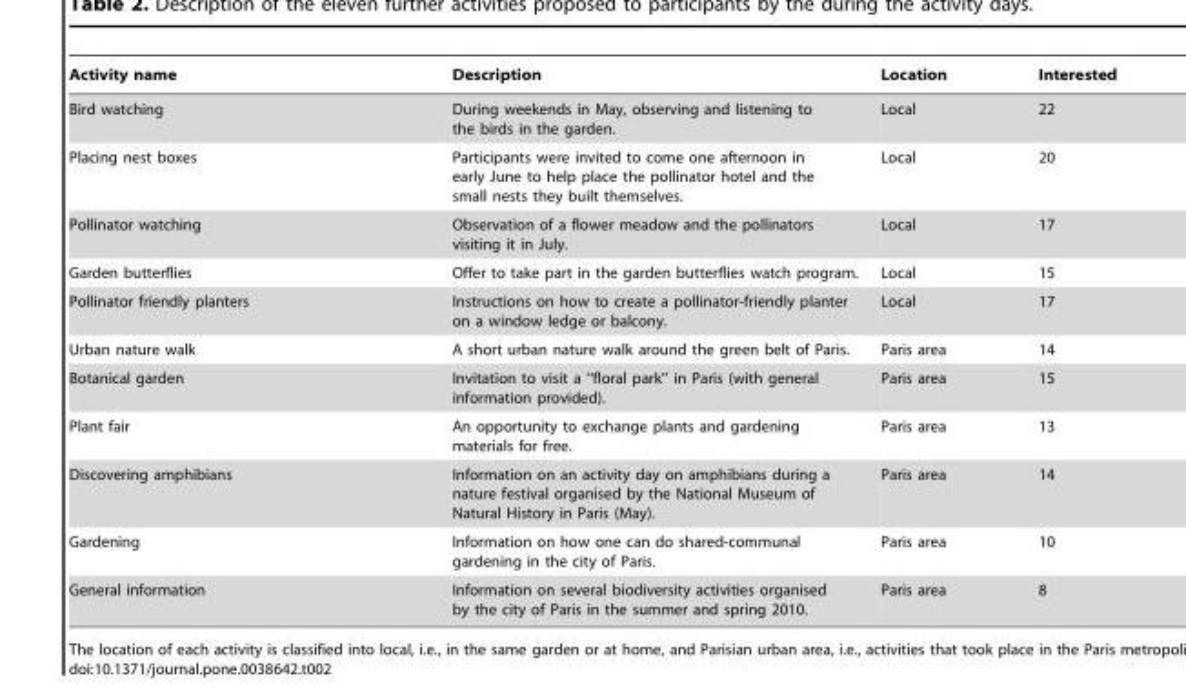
<table><thead><tr><td>Activity name</td><td>Description</td><td>Location</td><td>Interested</td></tr></thead><tbody><tr><td>Bird watching</td><td>During weekends in May, observing and listening to the birds in the garden.</td><td>Local</td><td>22</td></tr><tr><td>Placing nest boxes</td><td>Participants were invited to come one afternoon in early June to help place the pollinator hotel and the small nests they built themselves.</td><td>Local</td><td>20</td></tr><tr><td>Pollinator watching</td><td>Observation of a flower meadow and the pollinators visiting it in July.</td><td>Local</td><td>17</td></tr><tr><td>Garden butterflies</td><td>Offer to take part in the garden butterflies watch program.</td><td>Local</td><td>15</td></tr><tr><td>Pollinator friendly planters</td><td>Instructions on how to create a pollinator-friendly planter on a window ledge or balcony.</td><td>Local</td><td>17</td></tr><tr><td>Urban nature walk</td><td>A short urban nature walk around the green belt of Paris.</td><td>Paris area</td><td>14</td></tr><tr><td>Botanical garden</td><td>Invitation to visit a ‘‘floral park’’ in Paris (with general information provided).</td><td>Paris area</td><td>15</td></tr><tr><td>Plant fair</td><td>An opportunity to exchange plants and gardening materials for free.</td><td>Paris area</td><td>13</td></tr><tr><td>Discovering amphibians</td><td>Information on an activity day on amphibians during a nature festival organised by the National Museum of Natural History in Paris (May).</td><td>Paris area</td><td>14</td></tr><tr><td>Gardening</td><td>Information on how one can do shared-communal gardening in the city of Paris.</td><td>Paris area</td><td>10</td></tr><tr><td>General information</td><td>Information on several biodiversity activities organised by the city of Paris in the summer and spring 2010.</td><td>Paris area</td><td>8</td></tr></tbody></table>